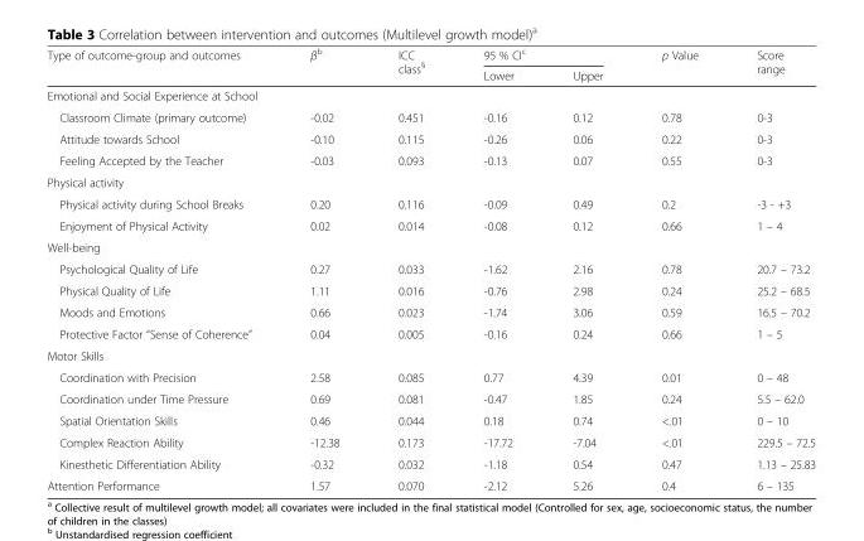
<table><thead><tr><td rowspan="2">Type of outcome-group and outcomes</td><td rowspan="2">β<sup>b</sup></td><td rowspan="2">ICC class<sup>§</sup></td><td colspan="2">95 % CI<sup>c</sup></td><td rowspan="2">p Value</td><td rowspan="2">Score range</td></tr><tr><td>Lower</td><td>Upper</td></tr></thead><tbody><tr><td colspan="7">Emotional and Social Experience at School</td></tr><tr><td>Classroom Climate (primary outcome)</td><td>-0.02</td><td>0.451</td><td>-0.16</td><td>0.12</td><td>0.78</td><td>0-3</td></tr><tr><td>Attitude towards School</td><td>-0.10</td><td>0.115</td><td>-0.26</td><td>0.06</td><td>0.22</td><td>0-3</td></tr><tr><td>Feeling Accepted by the Teacher</td><td>-0.03</td><td>0.093</td><td>-0.13</td><td>0.07</td><td>0.55</td><td>0-3</td></tr><tr><td colspan="7">Physical activity</td></tr><tr><td>Physical activity during School Breaks</td><td>0.20</td><td>0.116</td><td>-0.09</td><td>0.49</td><td>0.2</td><td>-3 - +3</td></tr><tr><td>Enjoyment of Physical Activity</td><td>0.02</td><td>0.014</td><td>-0.08</td><td>0.12</td><td>0.66</td><td>1 – 4</td></tr><tr><td colspan="7">Well-being</td></tr><tr><td>Psychological Quality of Life</td><td>0.27</td><td>0.033</td><td>-1.62</td><td>2.16</td><td>0.78</td><td>20.7 – 73.2</td></tr><tr><td>Physical Quality of Life</td><td>1.11</td><td>0.016</td><td>-0.76</td><td>2.98</td><td>0.24</td><td>25.2 – 68.5</td></tr><tr><td>Moods and Emotions</td><td>0.66</td><td>0.023</td><td>-1.74</td><td>3.06</td><td>0.59</td><td>16.5 – 70.2</td></tr><tr><td>Protective Factor “Sense of Coherence”</td><td>0.04</td><td>0.005</td><td>-0.16</td><td>0.24</td><td>0.66</td><td>1 – 5</td></tr><tr><td colspan="7">Motor Skills</td></tr><tr><td>Coordination with Precision</td><td>2.58</td><td>0.085</td><td>0.77</td><td>4.39</td><td>0.01</td><td>0 – 48</td></tr><tr><td>Coordination under Time Pressure</td><td>0.69</td><td>0.081</td><td>-0.47</td><td>1.85</td><td>0.24</td><td>5.5 – 62.0</td></tr><tr><td>Spatial Orientation Skills</td><td>0.46</td><td>0.044</td><td>0.18</td><td>0.74</td><td>&lt;.01</td><td>0 – 10</td></tr><tr><td>Complex Reaction Ability</td><td>-12.38</td><td>0.173</td><td>-17.72</td><td>-7.04</td><td>&lt;.01</td><td>229.5 – 72.5</td></tr><tr><td>Kinesthetic Differentiation Ability</td><td>-0.32</td><td>0.032</td><td>-1.18</td><td>0.54</td><td>0.47</td><td>1.13 – 25.83</td></tr><tr><td>Attention Performance</td><td>1.57</td><td>0.070</td><td>-2.12</td><td>5.26</td><td>0.4</td><td>6 – 135</td></tr></tbody></table>